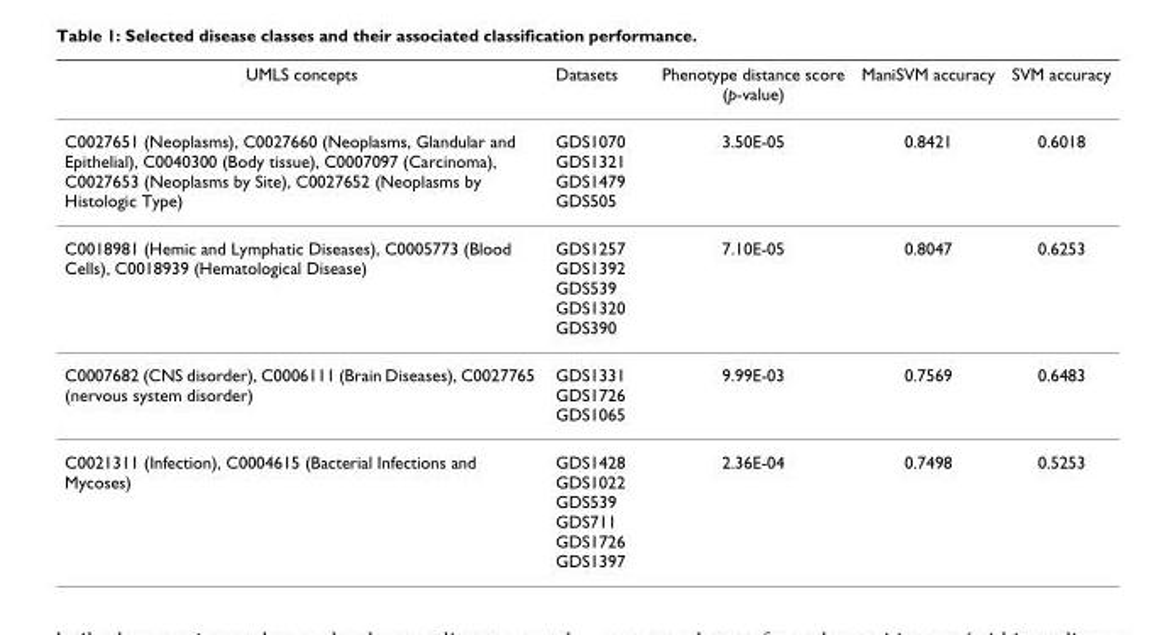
<table><thead><tr><td>UMLS concepts</td><td>Datasets</td><td>Phenotype distance score (p-value)</td><td>ManiSVM accuracy</td><td>SVM accuracy</td></tr></thead><tbody><tr><td>C0027651 (Neoplasms), C0027660 (Neoplasms, Glandular and Epithelial), C0040300 (Body tissue), C0007097 (Carcinoma), C0027653 (Neoplasms by Site), C0027652 (Neoplasms by Histologic Type)</td><td>GDS1070 GDS1321 GDS1479 GDS505</td><td>3.50E-05</td><td>0.8421</td><td>0.6018</td></tr><tr><td>C0018981 (Hemic and Lymphatic Diseases), C0005773 (Blood Cells), C0018939 (Hematological Disease)</td><td>GDS1257 GDS1392 GDS539 GDS1320 GDS390</td><td>7.10E-05</td><td>0.8047</td><td>0.6253</td></tr><tr><td>C0007682 (CNS disorder), C0006111 (Brain Diseases), C0027765 (nervous system disorder)</td><td>GDS1331 GDS1726 GDS1065</td><td>9.99E-03</td><td>0.7569</td><td>0.6483</td></tr><tr><td>C0021311 (Infection), C0004615 (Bacterial Infections and Mycoses)</td><td>GDS1428 GDS1022 GDS539 GDS711 GDS1726 GDS1397</td><td>2.36E-04</td><td>0.7498</td><td>0.5253</td></tr></tbody></table>